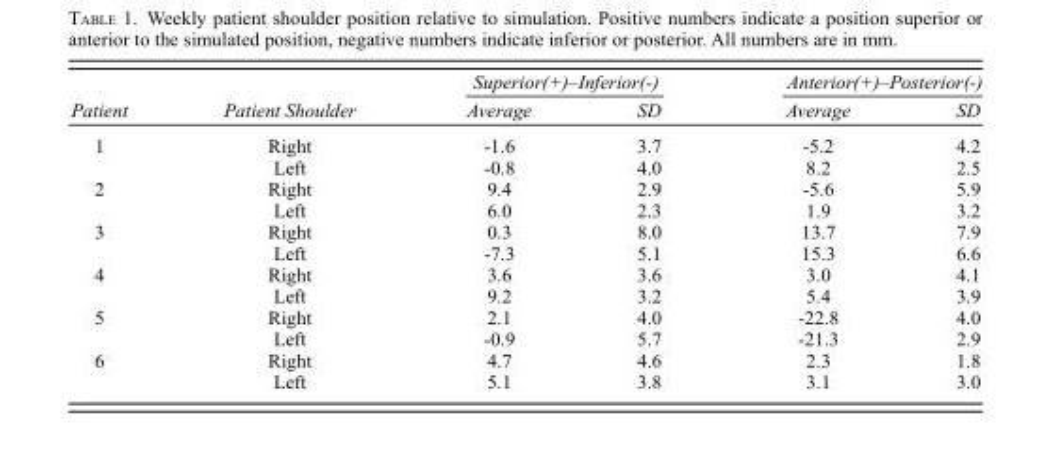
<table><thead><tr><td rowspan="2">Patient</td><td rowspan="2">Patient Shoulder</td><td colspan="2">Superior(+)–Inferior(-)</td><td colspan="2">Anterior(+)–Posterior(-)</td></tr><tr><td>Average</td><td>SD</td><td>Average</td><td>SD</td></tr></thead><tbody><tr><td rowspan="2">1</td><td>Right</td><td>-1.6</td><td>3.7</td><td>-5.2</td><td>4.2</td></tr><tr><td>Left</td><td>-0.8</td><td>4.0</td><td>8.2</td><td>2.5</td></tr><tr><td rowspan="2">2</td><td>Right</td><td>9.4</td><td>2.9</td><td>-5.6</td><td>5.9</td></tr><tr><td>Left</td><td>6.0</td><td>2.3</td><td>1.9</td><td>3.2</td></tr><tr><td rowspan="2">3</td><td>Right</td><td>0.3</td><td>8.0</td><td>13.7</td><td>7.9</td></tr><tr><td>Left</td><td>-7.3</td><td>5.1</td><td>15.3</td><td>6.6</td></tr><tr><td rowspan="2">4</td><td>Right</td><td>3.6</td><td>3.6</td><td>3.0</td><td>4.1</td></tr><tr><td>Left</td><td>9.2</td><td>3.2</td><td>5.4</td><td>3.9</td></tr><tr><td rowspan="2">5</td><td>Right</td><td>2.1</td><td>4.0</td><td>-22.8</td><td>4.0</td></tr><tr><td>Left</td><td>-0.9</td><td>5.7</td><td>-21.3</td><td>2.9</td></tr><tr><td rowspan="2">6</td><td>Right</td><td>4.7</td><td>4.6</td><td>2.3</td><td>1.8</td></tr><tr><td>Left</td><td>5.1</td><td>3.8</td><td>3.1</td><td>3.0</td></tr></tbody></table>